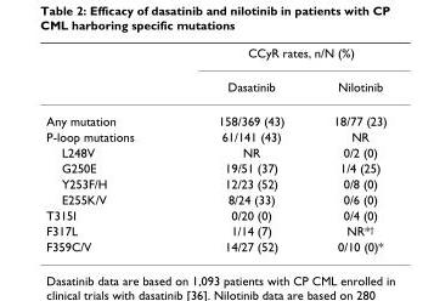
<table><thead><tr><td rowspan="2"></td><td colspan="2">CCyR rates, n/N (%)</td></tr><tr><td>Dasatinib</td><td>Nilotinib</td></tr></thead><tbody><tr><td>Any mutation</td><td>158/369 (43)</td><td>18/77 (23)</td></tr><tr><td>P-loop mutations</td><td>61/141 (43)</td><td>NR</td></tr><tr><td>L248V</td><td>NR</td><td>0/2 (0)</td></tr><tr><td>G250E</td><td>19/51 (37)</td><td>1/4 (25)</td></tr><tr><td>Y253F/H</td><td>12/23 (52)</td><td>0/8 (0)</td></tr><tr><td>E255K/V</td><td>8/24 (33)</td><td>0/6 (0)</td></tr><tr><td>T315I</td><td>0/20 (0)</td><td>0/4 (0)</td></tr><tr><td>F317L</td><td>1/14 (7)</td><td>NR*<sup>†</sup></td></tr><tr><td>F359C/V</td><td>14/27 (52)</td><td>0/10 (0)*</td></tr></tbody></table>